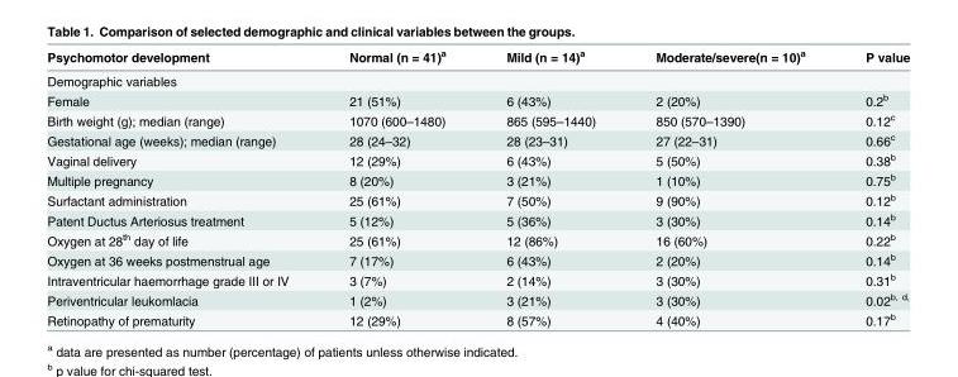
<table><thead><tr><td>Psychomotor development</td><td>Normal (n = 41)<sup>a</sup></td><td>Mild (n = 14)<sup>a</sup></td><td>Moderate/severe(n = 10)<sup>a</sup></td><td>P value</td></tr></thead><tbody><tr><td colspan="5">Demographic variables</td></tr><tr><td>Female</td><td>21 (51%)</td><td>6 (43%)</td><td>2 (20%)</td><td>0.2<sup>b</sup></td></tr><tr><td>Birth weight (g); median (range)</td><td>1070 (600–1480)</td><td>865 (595–1440)</td><td>850 (570–1390)</td><td>0.12<sup>c</sup></td></tr><tr><td>Gestational age (weeks); median (range)</td><td>28 (24–32)</td><td>28 (23–31)</td><td>27 (22–31)</td><td>0.66<sup>c</sup></td></tr><tr><td>Vaginal delivery</td><td>12 (29%)</td><td>6 (43%)</td><td>5 (50%)</td><td>0.38<sup>b</sup></td></tr><tr><td>Multiple pregnancy</td><td>8 (20%)</td><td>3 (21%)</td><td>1 (10%)</td><td>0.75<sup>b</sup></td></tr><tr><td>Surfactant administration</td><td>25 (61%)</td><td>7 (50%)</td><td>9 (90%)</td><td>0.12<sup>b</sup></td></tr><tr><td>Patent Ductus Arteriosus treatment</td><td>5 (12%)</td><td>5 (36%)</td><td>3 (30%)</td><td>0.14<sup>b</sup></td></tr><tr><td>Oxygen at 28<sup>th</sup> day of life</td><td>25 (61%)</td><td>12 (86%)</td><td>16 (60%)</td><td>0.22<sup>b</sup></td></tr><tr><td>Oxygen at 36 weeks postmenstrual age</td><td>7 (17%)</td><td>6 (43%)</td><td>2 (20%)</td><td>0.14<sup>b</sup></td></tr><tr><td>Intraventricular haemorrhage grade III or IV</td><td>3 (7%)</td><td>2 (14%)</td><td>3 (30%)</td><td>0.31<sup>b</sup></td></tr><tr><td>Periventricular leukomlacia</td><td>1 (2%)</td><td>3 (21%)</td><td>3 (30%)</td><td>0.02<sup>b, d,</sup></td></tr><tr><td>Retinopathy of prematurity</td><td>12 (29%)</td><td>8 (57%)</td><td>4 (40%)</td><td>0.17<sup>b</sup></td></tr></tbody></table>